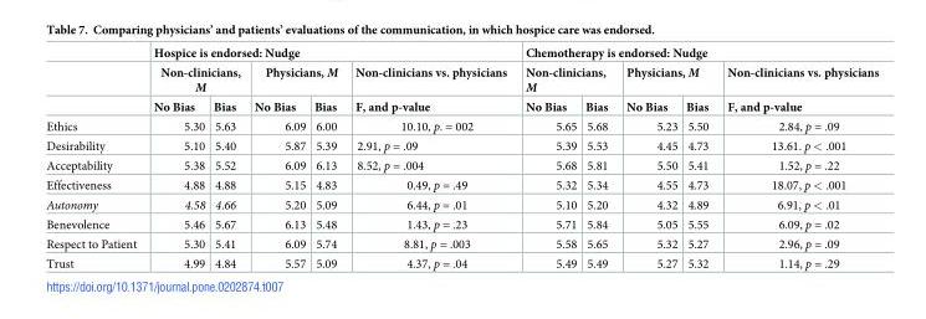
<table><thead><tr><td rowspan="3"></td><td colspan="5">Hospice is endorsed: Nudge</td><td colspan="5">Chemotherapy is endorsed: Nudge</td></tr><tr><td colspan="2">Non-clinicians, M</td><td colspan="2">Physicians, M</td><td rowspan="2">Non-clinicians vs. physicians F, and p-value</td><td colspan="2">Non-clinicians, M</td><td colspan="2">Physicians, M</td><td rowspan="2">Non-clinicians vs. physicians F, and p-value</td></tr><tr><td>No Bias</td><td>Bias</td><td>No Bias</td><td>Bias</td><td>No Bias</td><td>Bias</td><td>No Bias</td><td>Bias</td></tr></thead><tbody><tr><td>Ethics</td><td>5.30</td><td>5.63</td><td>6.09</td><td>6.00</td><td>10.10, p. = 002</td><td>5.65</td><td>5.68</td><td>5.23</td><td>5.50</td><td>2.84, p = .09</td></tr><tr><td>Desirability</td><td>5.10</td><td>5.40</td><td>5.87</td><td>5.39</td><td>2.91, p = .09</td><td>5.39</td><td>5.53</td><td>4.45</td><td>4.73</td><td>13.61. p &lt; .001</td></tr><tr><td>Acceptability</td><td>5.38</td><td>5.52</td><td>6.09</td><td>6.13</td><td>8.52, p = .004</td><td>5.68</td><td>5.81</td><td>5.50</td><td>5.41</td><td>1.52, p = .22</td></tr><tr><td>Effectiveness</td><td>4.88</td><td>4.88</td><td>5.15</td><td>4.83</td><td>0.49, p = .49</td><td>5.32</td><td>5.34</td><td>4.55</td><td>4.73</td><td>18.07, p &lt; .001</td></tr><tr><td>Autonomy</td><td>4.58</td><td>4.66</td><td>5.20</td><td>5.09</td><td>6.44, p = .01</td><td>5.10</td><td>5.20</td><td>4.32</td><td>4.89</td><td>6.91, p &lt; .01</td></tr><tr><td>Benevolence</td><td>5.46</td><td>5.67</td><td>6.13</td><td>5.48</td><td>1.43, p = .23</td><td>5.71</td><td>5.84</td><td>5.05</td><td>5.55</td><td>6.09, p = .02</td></tr><tr><td>Respect to Patient</td><td>5.30</td><td>5.41</td><td>6.09</td><td>5.74</td><td>8.81, p = .003</td><td>5.58</td><td>5.65</td><td>5.32</td><td>5.27</td><td>2.96, p = .09</td></tr><tr><td>Trust</td><td>4.99</td><td>4.84</td><td>5.57</td><td>5.09</td><td>4.37, p = .04</td><td>5.49</td><td>5.49</td><td>5.27</td><td>5.32</td><td>1.14, p = .29</td></tr></tbody></table>